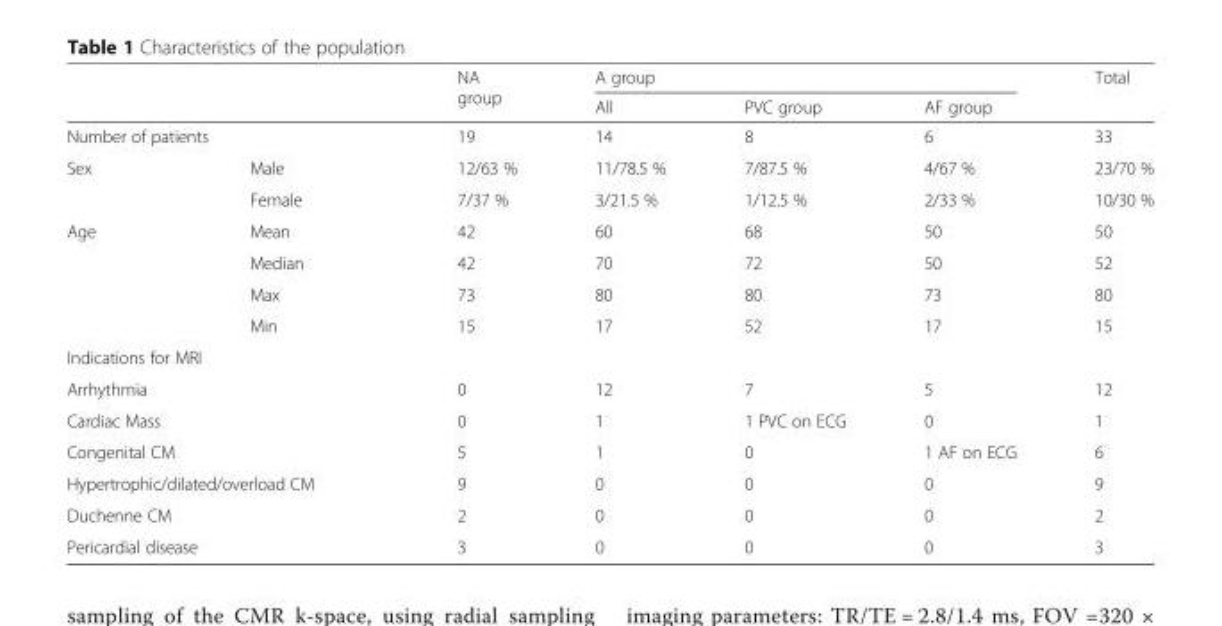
<table><thead><tr><td rowspan="2"></td><td rowspan="2"></td><td rowspan="2">NA group</td><td colspan="3">A group</td><td rowspan="2">Total</td></tr><tr><td>All</td><td>PVC group</td><td>AF group</td></tr></thead><tbody><tr><td colspan="2">Number of patients</td><td>19</td><td>14</td><td>8</td><td>6</td><td>33</td></tr><tr><td rowspan="2">Sex</td><td>Male</td><td>12/63 %</td><td>11/78.5 %</td><td>7/87.5 %</td><td>4/67 %</td><td>23/70 %</td></tr><tr><td>Female</td><td>7/37 %</td><td>3/21.5 %</td><td>1/12.5 %</td><td>2/33 %</td><td>10/30 %</td></tr><tr><td rowspan="4">Age</td><td>Mean</td><td>42</td><td>60</td><td>68</td><td>50</td><td>50</td></tr><tr><td>Median</td><td>42</td><td>70</td><td>72</td><td>50</td><td>52</td></tr><tr><td>Max</td><td>73</td><td>80</td><td>80</td><td>73</td><td>80</td></tr><tr><td>Min</td><td>15</td><td>17</td><td>52</td><td>17</td><td>15</td></tr><tr><td colspan="7">Indications for MRI</td></tr><tr><td colspan="2">Arrhythmia</td><td>0</td><td>12</td><td>7</td><td>5</td><td>12</td></tr><tr><td colspan="2">Cardiac Mass</td><td>0</td><td>1</td><td>1 PVC on ECG</td><td>0</td><td>1</td></tr><tr><td colspan="2">Congenital CM</td><td>5</td><td>1</td><td>0</td><td>1 AF on ECG</td><td>6</td></tr><tr><td colspan="2">Hypertrophic/dilated/overload CM</td><td>9</td><td>0</td><td>0</td><td>0</td><td>9</td></tr><tr><td colspan="2">Duchenne CM</td><td>2</td><td>0</td><td>0</td><td>0</td><td>2</td></tr><tr><td colspan="2">Pericardial disease</td><td>3</td><td>0</td><td>0</td><td>0</td><td>3</td></tr></tbody></table>